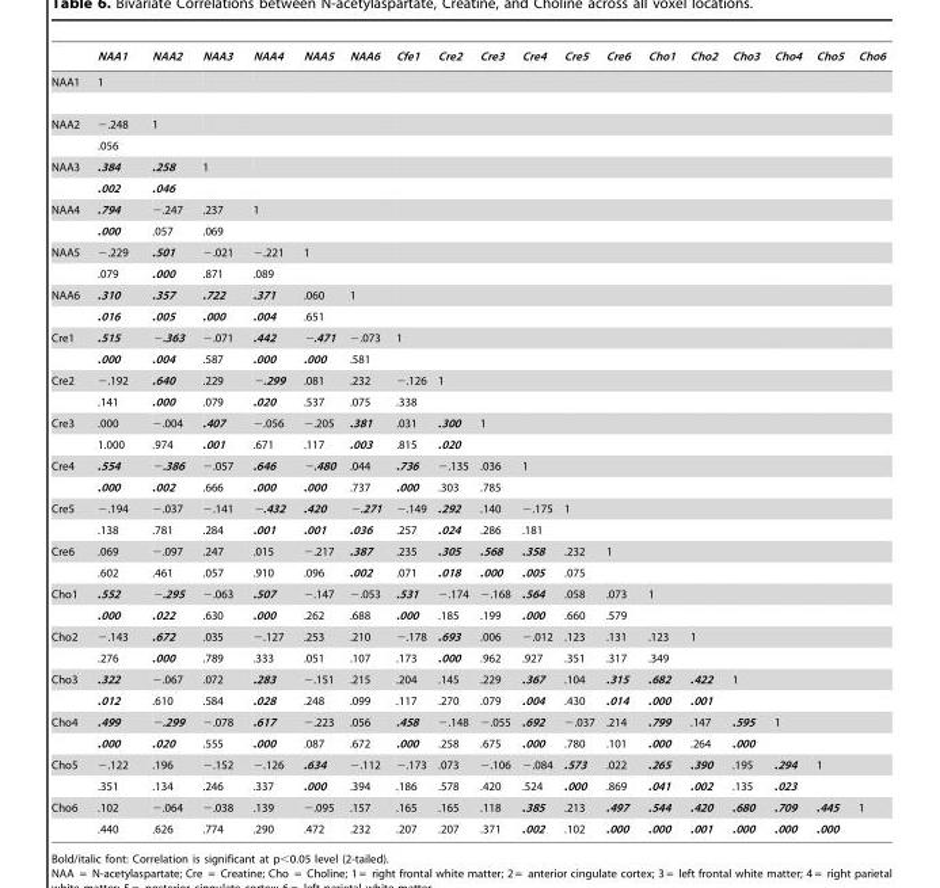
<table><thead><tr><td></td><td>NAA1</td><td>NAA2</td><td>NAA3</td><td>NAA4</td><td>NAA5</td><td>NAA6</td><td>Cfe1</td><td>Cre2</td><td>Cre3</td><td>Cre4</td><td>Cre5</td><td>Cre6</td><td>Cho1</td><td>Cho2</td><td>Cho3</td><td>Cho4</td><td>Cho5</td><td>Cho6</td></tr></thead><tbody><tr><td>NAA1</td><td>1</td><td></td><td></td><td></td><td></td><td></td><td></td><td></td><td></td><td></td><td></td><td></td><td></td><td></td><td></td><td></td><td></td><td></td></tr><tr><td rowspan="2">NAA2</td><td>−.248</td><td>1</td><td></td><td></td><td></td><td></td><td></td><td></td><td></td><td></td><td></td><td></td><td></td><td></td><td></td><td></td><td></td><td></td></tr><tr><td>.056</td><td></td><td></td><td></td><td></td><td></td><td></td><td></td><td></td><td></td><td></td><td></td><td></td><td></td><td></td><td></td><td></td><td></td></tr><tr><td rowspan="2">NAA3</td><td>.384</td><td>.258</td><td>1</td><td></td><td></td><td></td><td></td><td></td><td></td><td></td><td></td><td></td><td></td><td></td><td></td><td></td><td></td><td></td></tr><tr><td>.002</td><td>.046</td><td></td><td></td><td></td><td></td><td></td><td></td><td></td><td></td><td></td><td></td><td></td><td></td><td></td><td></td><td></td><td></td></tr><tr><td rowspan="2">NAA4</td><td>.794</td><td>−.247</td><td>.237</td><td>1</td><td></td><td></td><td></td><td></td><td></td><td></td><td></td><td></td><td></td><td></td><td></td><td></td><td></td><td></td></tr><tr><td>.000</td><td>.057</td><td>.069</td><td></td><td></td><td></td><td></td><td></td><td></td><td></td><td></td><td></td><td></td><td></td><td></td><td></td><td></td><td></td></tr><tr><td rowspan="2">NAA5</td><td>−.229</td><td>.501</td><td>−.021</td><td>−.221</td><td>1</td><td></td><td></td><td></td><td></td><td></td><td></td><td></td><td></td><td></td><td></td><td></td><td></td><td></td></tr><tr><td>.079</td><td>.000</td><td>.871</td><td>.089</td><td></td><td></td><td></td><td></td><td></td><td></td><td></td><td></td><td></td><td></td><td></td><td></td><td></td><td></td></tr><tr><td rowspan="2">NAA6</td><td>.310</td><td>.357</td><td>.722</td><td>.371</td><td>.060</td><td>1</td><td></td><td></td><td></td><td></td><td></td><td></td><td></td><td></td><td></td><td></td><td></td><td></td></tr><tr><td>.016</td><td>.005</td><td>.000</td><td>.004</td><td>.651</td><td></td><td></td><td></td><td></td><td></td><td></td><td></td><td></td><td></td><td></td><td></td><td></td><td></td></tr><tr><td rowspan="2">Cre1</td><td>.515</td><td>−.363</td><td>−.071</td><td>.442</td><td>−.471</td><td>−.073</td><td>1</td><td></td><td></td><td></td><td></td><td></td><td></td><td></td><td></td><td></td><td></td><td></td></tr><tr><td>.000</td><td>.004</td><td>.587</td><td>.000</td><td>.000</td><td>.581</td><td></td><td></td><td></td><td></td><td></td><td></td><td></td><td></td><td></td><td></td><td></td><td></td></tr><tr><td rowspan="2">Cre2</td><td>−.192</td><td>.640</td><td>.229</td><td>−.299</td><td>.081</td><td>.232</td><td>−.126</td><td>1</td><td></td><td></td><td></td><td></td><td></td><td></td><td></td><td></td><td></td><td></td></tr><tr><td>.141</td><td>.000</td><td>.079</td><td>.020</td><td>.537</td><td>.075</td><td>.338</td><td></td><td></td><td></td><td></td><td></td><td></td><td></td><td></td><td></td><td></td><td></td></tr><tr><td rowspan="2">Cre3</td><td>.000</td><td>−.004</td><td>.407</td><td>−.056</td><td>−.205</td><td>.381</td><td>.031</td><td>.300</td><td>1</td><td></td><td></td><td></td><td></td><td></td><td></td><td></td><td></td><td></td></tr><tr><td>1.000</td><td>.974</td><td>.001</td><td>.671</td><td>.117</td><td>.003</td><td>.815</td><td>.020</td><td></td><td></td><td></td><td></td><td></td><td></td><td></td><td></td><td></td><td></td></tr><tr><td rowspan="2">Cre4</td><td>.554</td><td>−.386</td><td>−.057</td><td>.646</td><td>−.480</td><td>.044</td><td>.736</td><td>−.135</td><td>.036</td><td>1</td><td></td><td></td><td></td><td></td><td></td><td></td><td></td><td></td></tr><tr><td>.000</td><td>.002</td><td>.666</td><td>.000</td><td>.000</td><td>.737</td><td>.000</td><td>.303</td><td>.785</td><td></td><td></td><td></td><td></td><td></td><td></td><td></td><td></td><td></td></tr><tr><td rowspan="2">Cre5</td><td>−.194</td><td>−.037</td><td>−.141</td><td>−.432</td><td>.420</td><td>−.271</td><td>−.149</td><td>.292</td><td>.140</td><td>−.175</td><td>1</td><td></td><td></td><td></td><td></td><td></td><td></td><td></td></tr><tr><td>.138</td><td>.781</td><td>.284</td><td>.001</td><td>.001</td><td>.036</td><td>.257</td><td>.024</td><td>.286</td><td>.181</td><td></td><td></td><td></td><td></td><td></td><td></td><td></td><td></td></tr><tr><td rowspan="2">Cre6</td><td>.069</td><td>−.097</td><td>.247</td><td>.015</td><td>−.217</td><td>.387</td><td>.235</td><td>.305</td><td>.568</td><td>.358</td><td>.232</td><td>1</td><td></td><td></td><td></td><td></td><td></td><td></td></tr><tr><td>.602</td><td>.461</td><td>.057</td><td>.910</td><td>.096</td><td>.002</td><td>.071</td><td>.018</td><td>.000</td><td>.005</td><td>.075</td><td></td><td></td><td></td><td></td><td></td><td></td><td></td></tr><tr><td rowspan="2">Cho1</td><td>.552</td><td>−.295</td><td>−.063</td><td>.507</td><td>−.147</td><td>−.053</td><td>.531</td><td>−.174</td><td>−.168</td><td>.564</td><td>.058</td><td>.073</td><td>1</td><td></td><td></td><td></td><td></td><td></td></tr><tr><td>.000</td><td>.022</td><td>.630</td><td>.000</td><td>.262</td><td>.688</td><td>.000</td><td>.185</td><td>.199</td><td>.000</td><td>.660</td><td>.579</td><td></td><td></td><td></td><td></td><td></td><td></td></tr><tr><td rowspan="2">Cho2</td><td>−.143</td><td>.672</td><td>.035</td><td>−.127</td><td>.253</td><td>.210</td><td>−.178</td><td>.693</td><td>.006</td><td>−.012</td><td>.123</td><td>.131</td><td>.123</td><td>1</td><td></td><td></td><td></td><td></td></tr><tr><td>.276</td><td>.000</td><td>.789</td><td>.333</td><td>.051</td><td>.107</td><td>.173</td><td>.000</td><td>.962</td><td>.927</td><td>.351</td><td>.317</td><td>.349</td><td></td><td></td><td></td><td></td><td></td></tr><tr><td rowspan="2">Cho3</td><td>.322</td><td>−.067</td><td>.072</td><td>.283</td><td>−.151</td><td>.215</td><td>.204</td><td>.145</td><td>.229</td><td>.367</td><td>.104</td><td>.315</td><td>.682</td><td>.422</td><td>1</td><td></td><td></td><td></td></tr><tr><td>.012</td><td>.610</td><td>.584</td><td>.028</td><td>.248</td><td>.099</td><td>.117</td><td>.270</td><td>.079</td><td>.004</td><td>.430</td><td>.014</td><td>.000</td><td>.001</td><td></td><td></td><td></td><td></td></tr><tr><td rowspan="2">Cho4</td><td>.499</td><td>−.299</td><td>−.078</td><td>.617</td><td>−.223</td><td>.056</td><td>.458</td><td>−.148</td><td>−.055</td><td>.692</td><td>−.037</td><td>.214</td><td>.799</td><td>.147</td><td>.595</td><td>1</td><td></td><td></td></tr><tr><td>.000</td><td>.020</td><td>.555</td><td>.000</td><td>.087</td><td>.672</td><td>.000</td><td>.258</td><td>.675</td><td>.000</td><td>.780</td><td>.101</td><td>.000</td><td>.264</td><td>.000</td><td></td><td></td><td></td></tr><tr><td rowspan="2">Cho5</td><td>−.122</td><td>.196</td><td>−.152</td><td>−.126</td><td>.634</td><td>−.112</td><td>−.173</td><td>.073</td><td>−.106</td><td>−.084</td><td>.573</td><td>.022</td><td>.265</td><td>.390</td><td>.195</td><td>.294</td><td>1</td><td></td></tr><tr><td>.351</td><td>.134</td><td>.246</td><td>.337</td><td>.000</td><td>.394</td><td>.186</td><td>.578</td><td>.420</td><td>.524</td><td>.000</td><td>.869</td><td>.041</td><td>.002</td><td>.135</td><td>.023</td><td></td><td></td></tr><tr><td rowspan="2">Cho6</td><td>.102</td><td>−.064</td><td>−.038</td><td>.139</td><td>−.095</td><td>.157</td><td>.165</td><td>.165</td><td>.118</td><td>.385</td><td>.213</td><td>.497</td><td>.544</td><td>.420</td><td>.680</td><td>.709</td><td>.445</td><td>1</td></tr><tr><td>.440</td><td>.626</td><td>.774</td><td>.290</td><td>.472</td><td>.232</td><td>.207</td><td>.207</td><td>.371</td><td>.002</td><td>.102</td><td>.000</td><td>.000</td><td>.001</td><td>.000</td><td>.000</td><td>.000</td><td></td></tr></tbody></table>